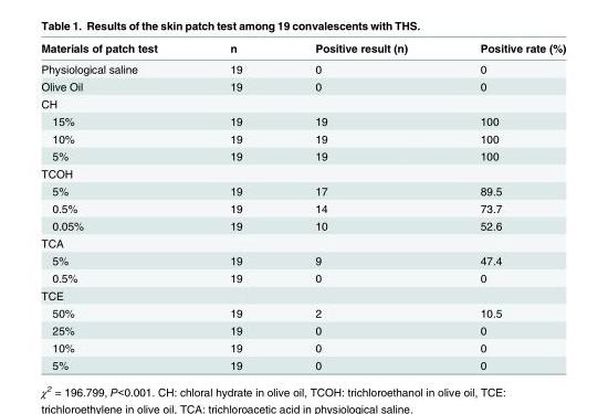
<table><thead><tr><td>Materials of patch test</td><td>n</td><td>Positive result (n)</td><td>Positive rate (%)</td></tr></thead><tbody><tr><td>Physiological saline</td><td>19</td><td>0</td><td>0</td></tr><tr><td>Olive Oil</td><td>19</td><td>0</td><td>0</td></tr><tr><td colspan="4">CH</td></tr><tr><td>15%</td><td>19</td><td>19</td><td>100</td></tr><tr><td>10%</td><td>19</td><td>19</td><td>100</td></tr><tr><td>5%</td><td>19</td><td>19</td><td>100</td></tr><tr><td colspan="4">TCOH</td></tr><tr><td>5%</td><td>19</td><td>17</td><td>89.5</td></tr><tr><td>0.5%</td><td>19</td><td>14</td><td>73.7</td></tr><tr><td>0.05%</td><td>19</td><td>10</td><td>52.6</td></tr><tr><td colspan="4">TCA</td></tr><tr><td>5%</td><td>19</td><td>9</td><td>47.4</td></tr><tr><td>0.5%</td><td>19</td><td>0</td><td>0</td></tr><tr><td colspan="4">TCE</td></tr><tr><td>50%</td><td>19</td><td>2</td><td>10.5</td></tr><tr><td>25%</td><td>19</td><td>0</td><td>0</td></tr><tr><td>10%</td><td>19</td><td>0</td><td>0</td></tr><tr><td>5%</td><td>19</td><td>0</td><td>0</td></tr></tbody></table>